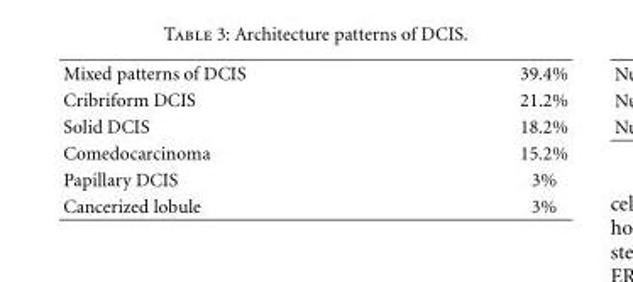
<table><tbody><tr><td>Mixed patterns of DCIS</td><td>39.4%</td></tr><tr><td>Cribriform DCIS</td><td>21.2%</td></tr><tr><td>Solid DCIS</td><td>18.2%</td></tr><tr><td>Comedocarcinoma</td><td>15.2%</td></tr><tr><td>Papillary DCIS</td><td>3%</td></tr><tr><td>Cancerized lobule</td><td>3%</td></tr></tbody></table>